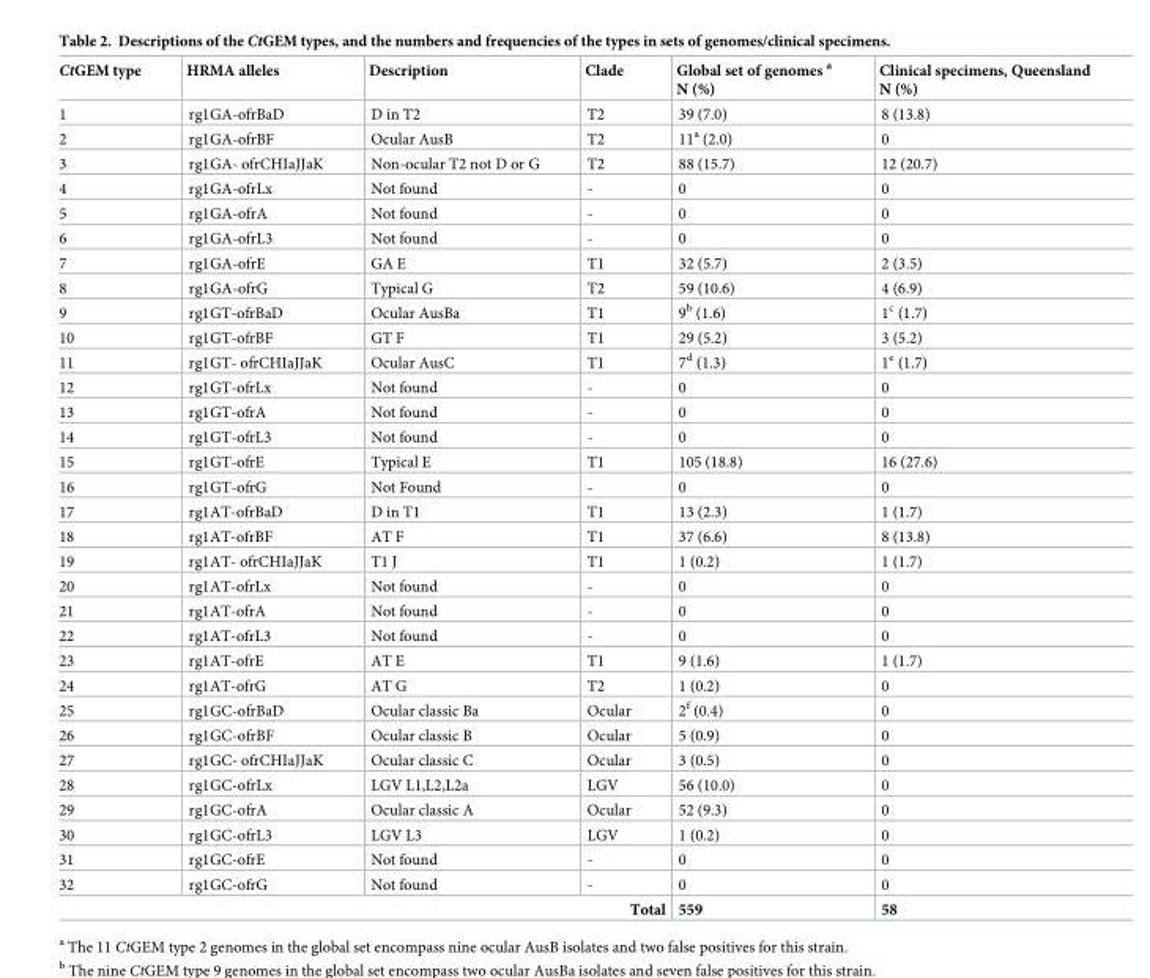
<table><thead><tr><td>CtGEM type</td><td>HRMA alleles</td><td>Description</td><td>Clade</td><td>Global set of genomes <sup>a</sup> N (%)</td><td>Clinical specimens, Queensland N (%)</td></tr></thead><tbody><tr><td>1</td><td>rg1GA-ofrBaD</td><td>D in T2</td><td>T2</td><td>39 (7.0)</td><td>8 (13.8)</td></tr><tr><td>2</td><td>rg1GA-ofrBF</td><td>Ocular AusB</td><td>T2</td><td>11<sup>a</sup> (2.0)</td><td>0</td></tr><tr><td>3</td><td>rg1GA- ofrCHIaJJaK</td><td>Non-ocular T2 not D or G</td><td>T2</td><td>88 (15.7)</td><td>12 (20.7)</td></tr><tr><td>4</td><td>rg1GA-ofrLx</td><td>Not found</td><td>-</td><td>0</td><td>0</td></tr><tr><td>5</td><td>rg1GA-ofrA</td><td>Not found</td><td>-</td><td>0</td><td>0</td></tr><tr><td>6</td><td>rg1GA-ofrL3</td><td>Not found</td><td>-</td><td>0</td><td>0</td></tr><tr><td>7</td><td>rg1GA-ofrE</td><td>GA E</td><td>T1</td><td>32 (5.7)</td><td>2 (3.5)</td></tr><tr><td>8</td><td>rg1GA-ofrG</td><td>Typical G</td><td>T2</td><td>59 (10.6)</td><td>4 (6.9)</td></tr><tr><td>9</td><td>rg1GT-ofrBaD</td><td>Ocular AusBa</td><td>T1</td><td>9<sup>b</sup> (1.6)</td><td>1<sup>c</sup> (1.7)</td></tr><tr><td>10</td><td>rg1GT-ofrBF</td><td>GT F</td><td>T1</td><td>29 (5.2)</td><td>3 (5.2)</td></tr><tr><td>11</td><td>rg1GT- ofrCHIaJJaK</td><td>Ocular AusC</td><td>T1</td><td>7<sup>d</sup> (1.3)</td><td>1<sup>e</sup> (1.7)</td></tr><tr><td>12</td><td>rg1GT-ofrLx</td><td>Not found</td><td>-</td><td>0</td><td>0</td></tr><tr><td>13</td><td>rg1GT-ofrA</td><td>Not found</td><td>-</td><td>0</td><td>0</td></tr><tr><td>14</td><td>rg1GT-ofrL3</td><td>Not found</td><td>-</td><td>0</td><td>0</td></tr><tr><td>15</td><td>rg1GT-ofrE</td><td>Typical E</td><td>T1</td><td>105 (18.8)</td><td>16 (27.6)</td></tr><tr><td>16</td><td>rg1GT-ofrG</td><td>Not Found</td><td>-</td><td>0</td><td>0</td></tr><tr><td>17</td><td>rg1AT-ofrBaD</td><td>D in T1</td><td>T1</td><td>13 (2.3)</td><td>1 (1.7)</td></tr><tr><td>18</td><td>rg1AT-ofrBF</td><td>AT F</td><td>T1</td><td>37 (6.6)</td><td>8 (13.8)</td></tr><tr><td>19</td><td>rg1AT- ofrCHIaJJaK</td><td>T1 J</td><td>T1</td><td>1 (0.2)</td><td>1 (1.7)</td></tr><tr><td>20</td><td>rg1AT-ofrLx</td><td>Not found</td><td>-</td><td>0</td><td>0</td></tr><tr><td>21</td><td>rg1AT-ofrA</td><td>Not found</td><td>-</td><td>0</td><td>0</td></tr><tr><td>22</td><td>rg1AT-ofrL3</td><td>Not found</td><td>-</td><td>0</td><td>0</td></tr><tr><td>23</td><td>rg1AT-ofrE</td><td>AT E</td><td>T1</td><td>9 (1.6)</td><td>1 (1.7)</td></tr><tr><td>24</td><td>rg1AT-ofrG</td><td>AT G</td><td>T2</td><td>1 (0.2)</td><td>0</td></tr><tr><td>25</td><td>rg1GC-ofrBaD</td><td>Ocular classic Ba</td><td>Ocular</td><td>2<sup>f</sup> (0.4)</td><td>0</td></tr><tr><td>26</td><td>rg1GC-ofrBF</td><td>Ocular classic B</td><td>Ocular</td><td>5 (0.9)</td><td>0</td></tr><tr><td>27</td><td>rg1GC- ofrCHIaJJaK</td><td>Ocular classic C</td><td>Ocular</td><td>3 (0.5)</td><td>0</td></tr><tr><td>28</td><td>rg1GC-ofrLx</td><td>LGV L1,L2,L2a</td><td>LGV</td><td>56 (10.0)</td><td>0</td></tr><tr><td>29</td><td>rg1GC-ofrA</td><td>Ocular classic A</td><td>Ocular</td><td>52 (9.3)</td><td>0</td></tr><tr><td>30</td><td>rg1GC-ofrL3</td><td>LGV L3</td><td>LGV</td><td>1 (0.2)</td><td>0</td></tr><tr><td>31</td><td>rg1GC-ofrE</td><td>Not found</td><td>-</td><td>0</td><td>0</td></tr><tr><td>32</td><td>rg1GC-ofrG</td><td>Not found</td><td>-</td><td>0</td><td>0</td></tr><tr><td colspan="4">Total</td><td>559</td><td>58</td></tr></tbody></table>